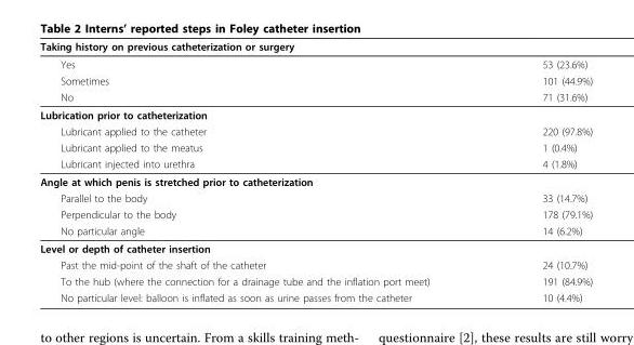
<table><thead><tr><td>Taking history on previous catheterization or surgery</td><td></td></tr></thead><tbody><tr><td>Yes</td><td>53 (23.6%)</td></tr><tr><td>Sometimes</td><td>101 (44.9%)</td></tr><tr><td>No</td><td>71 (31.6%)</td></tr><tr><td colspan="2">Lubrication prior to catheterization</td></tr><tr><td>Lubricant applied to the catheter</td><td>220 (97.8%)</td></tr><tr><td>Lubricant applied to the meatus</td><td>1 (0.4%)</td></tr><tr><td>Lubricant injected into urethra</td><td>4 (1.8%)</td></tr><tr><td colspan="2">Angle at which penis is stretched prior to catheterization</td></tr><tr><td>Parallel to the body</td><td>33 (14.7%)</td></tr><tr><td>Perpendicular to the body</td><td>178 (79.1%)</td></tr><tr><td>No particular angle</td><td>14 (6.2%)</td></tr><tr><td colspan="2">Level or depth of catheter insertion</td></tr><tr><td>Past the mid-point of the shaft of the catheter</td><td>24 (10.7%)</td></tr><tr><td>To the hub (where the connection for a drainage tube and the inflation port meet)</td><td>191 (84.9%)</td></tr><tr><td>No particular level: balloon is inflated as soon as urine passes from the catheter</td><td>10 (4.4%)</td></tr></tbody></table>